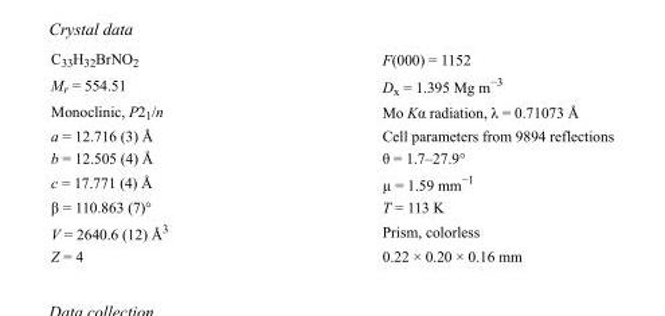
<table><tbody><tr><td>C<sub>33</sub>H<sub>32</sub>BrNO<sub>2</sub></td><td>F(000) = 1152</td></tr><tr><td>M<sub>r</sub> = 554.51</td><td>D<sub>x</sub> = 1.395 Mg m<sup>−3</sup></td></tr><tr><td>Monoclinic, P2<sub>1</sub>/n</td><td>Mo Kα radiation, λ = 0.71073 Å</td></tr><tr><td>a = 12.716 (3) Å</td><td>Cell parameters from 9894 reflections</td></tr><tr><td>b = 12.505 (4) Å</td><td>θ = 1.7–27.9°</td></tr><tr><td>c = 17.771 (4) Å</td><td>µ = 1.59 mm<sup>−1</sup></td></tr><tr><td>β = 110.863 (7)°</td><td>T = 113 K</td></tr><tr><td>V = 2640.6 (12) Å<sup>3</sup></td><td>Prism, colorless</td></tr><tr><td>Z = 4</td><td>0.22 × 0.20 × 0.16 mm</td></tr></tbody></table>